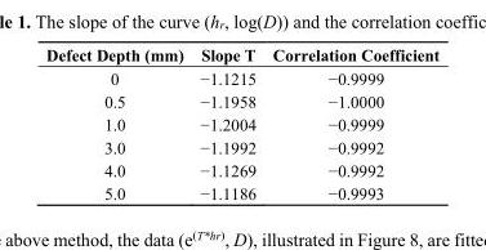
<table><thead><tr><td>Defect Depth (mm)</td><td>Slope T</td><td>Correlation Coefficient</td></tr></thead><tbody><tr><td>0</td><td>−1.1215</td><td>−0.9999</td></tr><tr><td>0.5</td><td>−1.1958</td><td>−1.0000</td></tr><tr><td>1.0</td><td>−1.2004</td><td>−0.9999</td></tr><tr><td>3.0</td><td>−1.1992</td><td>−0.9992</td></tr><tr><td>4.0</td><td>−1.1269</td><td>−0.9992</td></tr><tr><td>5.0</td><td>−1.1186</td><td>−0.9993</td></tr></tbody></table>